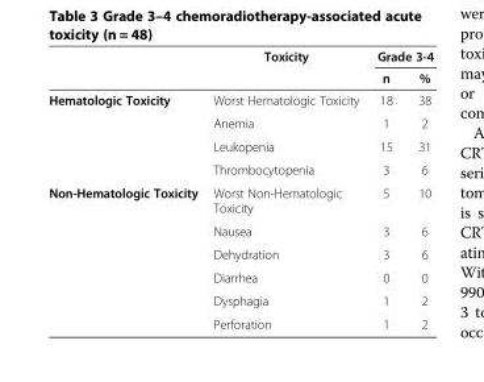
<table><thead><tr><td rowspan="2"></td><td rowspan="2">Toxicity</td><td colspan="2">Grade 3-4</td></tr><tr><td>n</td><td>%</td></tr></thead><tbody><tr><td rowspan="4">Hematologic Toxicity</td><td>Worst Hematologic Toxicity</td><td>18</td><td>38</td></tr><tr><td>Anemia</td><td>1</td><td>2</td></tr><tr><td>Leukopenia</td><td>15</td><td>31</td></tr><tr><td>Thrombocytopenia</td><td>3</td><td>6</td></tr><tr><td rowspan="6">Non-Hematologic Toxicity</td><td>Worst Non-Hematologic Toxicity</td><td>5</td><td>10</td></tr><tr><td>Nausea</td><td>3</td><td>6</td></tr><tr><td>Dehydration</td><td>3</td><td>6</td></tr><tr><td>Diarrhea</td><td>0</td><td>0</td></tr><tr><td>Dysphagia</td><td>1</td><td>2</td></tr><tr><td>Perforation</td><td>1</td><td>2</td></tr></tbody></table>